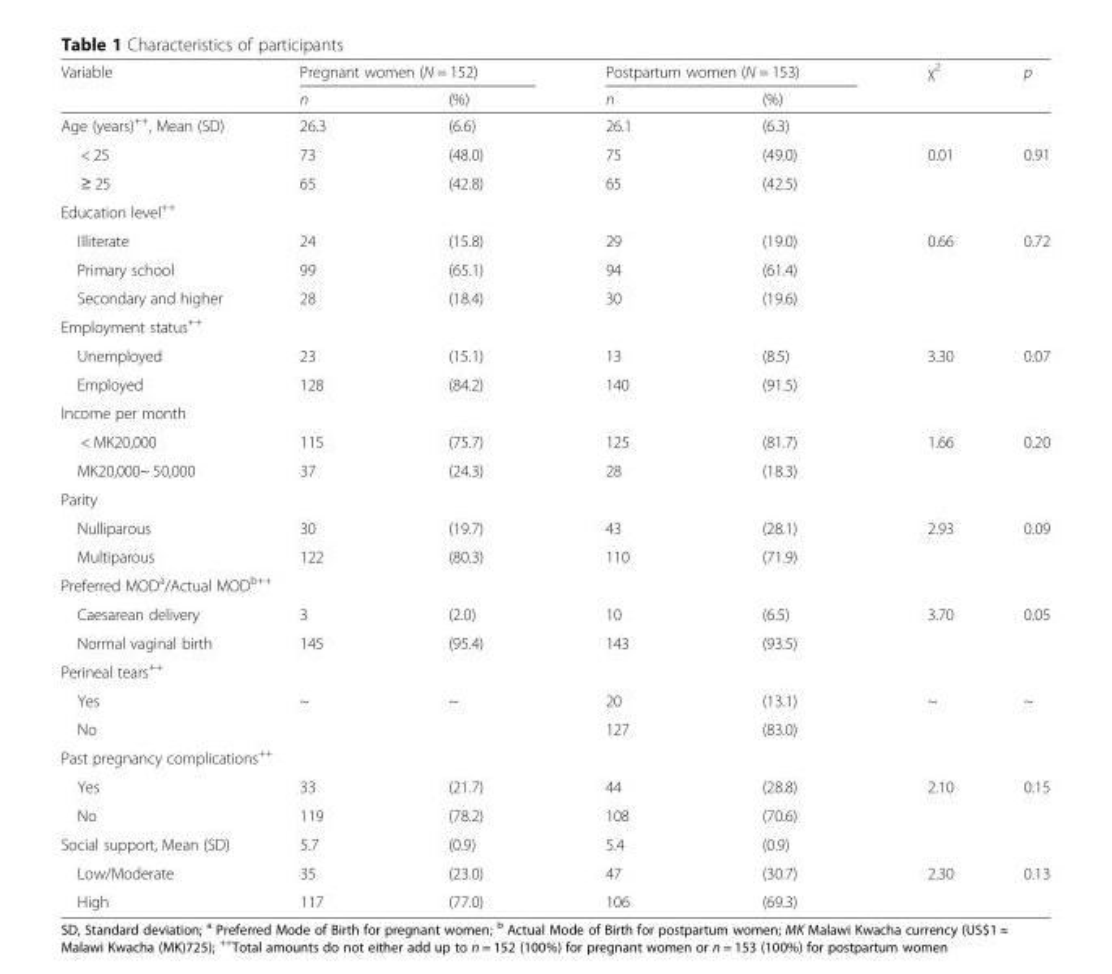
<table><thead><tr><td rowspan="2">Variable</td><td colspan="2">Pregnant women (N = 152)</td><td colspan="2">Postpartum women (N = 153)</td><td rowspan="2">χ<sup>2</sup></td><td rowspan="2">p</td></tr><tr><td>n</td><td>(%)</td><td>n</td><td>(%)</td></tr></thead><tbody><tr><td>Age (years)<sup>++</sup>, Mean (SD)</td><td>26.3</td><td>(6.6)</td><td>26.1</td><td>(6.3)</td><td></td><td></td></tr><tr><td>&lt; 25</td><td>73</td><td>(48.0)</td><td>75</td><td>(49.0)</td><td>0.01</td><td>0.91</td></tr><tr><td>≥ 25</td><td>65</td><td>(42.8)</td><td>65</td><td>(42.5)</td><td></td><td></td></tr><tr><td colspan="7">Education level<sup>++</sup></td></tr><tr><td>Illiterate</td><td>24</td><td>(15.8)</td><td>29</td><td>(19.0)</td><td>0.66</td><td>0.72</td></tr><tr><td>Primary school</td><td>99</td><td>(65.1)</td><td>94</td><td>(61.4)</td><td></td><td></td></tr><tr><td>Secondary and higher</td><td>28</td><td>(18.4)</td><td>30</td><td>(19.6)</td><td></td><td></td></tr><tr><td colspan="7">Employment status<sup>++</sup></td></tr><tr><td>Unemployed</td><td>23</td><td>(15.1)</td><td>13</td><td>(8.5)</td><td>3.30</td><td>0.07</td></tr><tr><td>Employed</td><td>128</td><td>(84.2)</td><td>140</td><td>(91.5)</td><td></td><td></td></tr><tr><td colspan="7">Income per month</td></tr><tr><td>&lt; MK20,000</td><td>115</td><td>(75.7)</td><td>125</td><td>(81.7)</td><td>1.66</td><td>0.20</td></tr><tr><td>MK20,000~ 50,000</td><td>37</td><td>(24.3)</td><td>28</td><td>(18.3)</td><td></td><td></td></tr><tr><td colspan="7">Parity</td></tr><tr><td>Nulliparous</td><td>30</td><td>(19.7)</td><td>43</td><td>(28.1)</td><td>2.93</td><td>0.09</td></tr><tr><td>Multiparous</td><td>122</td><td>(80.3)</td><td>110</td><td>(71.9)</td><td></td><td></td></tr><tr><td colspan="7">Preferred MOD<sup>a</sup>/Actual MOD<sup>b++</sup></td></tr><tr><td>Caesarean delivery</td><td>3</td><td>(2.0)</td><td>10</td><td>(6.5)</td><td>3.70</td><td>0.05</td></tr><tr><td>Normal vaginal birth</td><td>145</td><td>(95.4)</td><td>143</td><td>(93.5)</td><td></td><td></td></tr><tr><td colspan="7">Perineal tears<sup>++</sup></td></tr><tr><td>Yes</td><td>~</td><td>~</td><td>20</td><td>(13.1)</td><td>~</td><td>~</td></tr><tr><td>No</td><td></td><td></td><td>127</td><td>(83.0)</td><td></td><td></td></tr><tr><td colspan="7">Past pregnancy complications<sup>++</sup></td></tr><tr><td>Yes</td><td>33</td><td>(21.7)</td><td>44</td><td>(28.8)</td><td>2.10</td><td>0.15</td></tr><tr><td>No</td><td>119</td><td>(78.2)</td><td>108</td><td>(70.6)</td><td></td><td></td></tr><tr><td>Social support, Mean (SD)</td><td>5.7</td><td>(0.9)</td><td>5.4</td><td>(0.9)</td><td></td><td></td></tr><tr><td>Low/Moderate</td><td>35</td><td>(23.0)</td><td>47</td><td>(30.7)</td><td>2.30</td><td>0.13</td></tr><tr><td>High</td><td>117</td><td>(77.0)</td><td>106</td><td>(69.3)</td><td></td><td></td></tr></tbody></table>